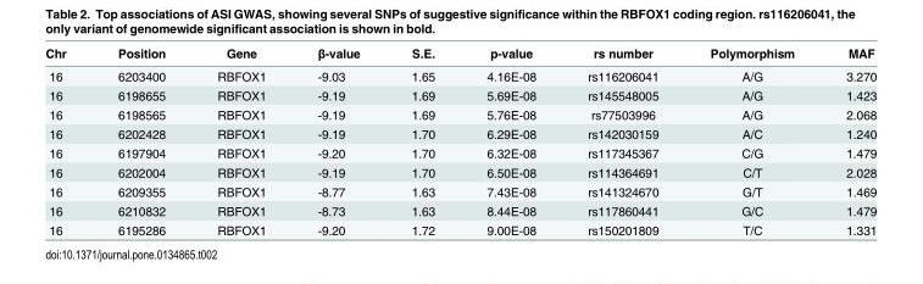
<table><thead><tr><td>Chr</td><td>Position</td><td>Gene</td><td>β-value</td><td>S.E.</td><td>p-value</td><td>rs number</td><td>Polymorphism</td><td>MAF</td></tr></thead><tbody><tr><td>16</td><td>6203400</td><td>RBFOX1</td><td>-9.03</td><td>1.65</td><td>4.16E-08</td><td>rs116206041</td><td>A/G</td><td>3.270</td></tr><tr><td>16</td><td>6198655</td><td>RBFOX1</td><td>-9.19</td><td>1.69</td><td>5.69E-08</td><td>rs145548005</td><td>A/G</td><td>1.423</td></tr><tr><td>16</td><td>6198565</td><td>RBFOX1</td><td>-9.19</td><td>1.69</td><td>5.76E-08</td><td>rs77503996</td><td>A/G</td><td>2.068</td></tr><tr><td>16</td><td>6202428</td><td>RBFOX1</td><td>-9.19</td><td>1.70</td><td>6.29E-08</td><td>rs142030159</td><td>A/C</td><td>1.240</td></tr><tr><td>16</td><td>6197904</td><td>RBFOX1</td><td>-9.20</td><td>1.70</td><td>6.32E-08</td><td>rs117345367</td><td>C/G</td><td>1.479</td></tr><tr><td>16</td><td>6202004</td><td>RBFOX1</td><td>-9.19</td><td>1.70</td><td>6.50E-08</td><td>rs114364691</td><td>C/T</td><td>2.028</td></tr><tr><td>16</td><td>6209355</td><td>RBFOX1</td><td>-8.77</td><td>1.63</td><td>7.43E-08</td><td>rs141324670</td><td>G/T</td><td>1.469</td></tr><tr><td>16</td><td>6210832</td><td>RBFOX1</td><td>-8.73</td><td>1.63</td><td>8.44E-08</td><td>rs117860441</td><td>G/C</td><td>1.479</td></tr><tr><td>16</td><td>6195286</td><td>RBFOX1</td><td>-9.20</td><td>1.72</td><td>9.00E-08</td><td>rs150201809</td><td>T/C</td><td>1.331</td></tr></tbody></table>